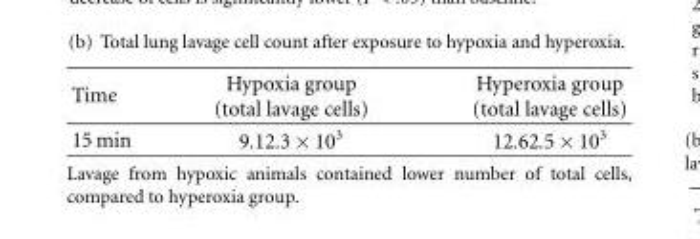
<table><thead><tr><td>Time</td><td>Hypoxia group (total lavage cells)</td><td>Hyperoxia group (total lavage cells)</td></tr></thead><tbody><tr><td>15 min</td><td>9.12.3 × 10<sup>3</sup></td><td>12.62.5 × 10<sup>3</sup></td></tr></tbody></table>